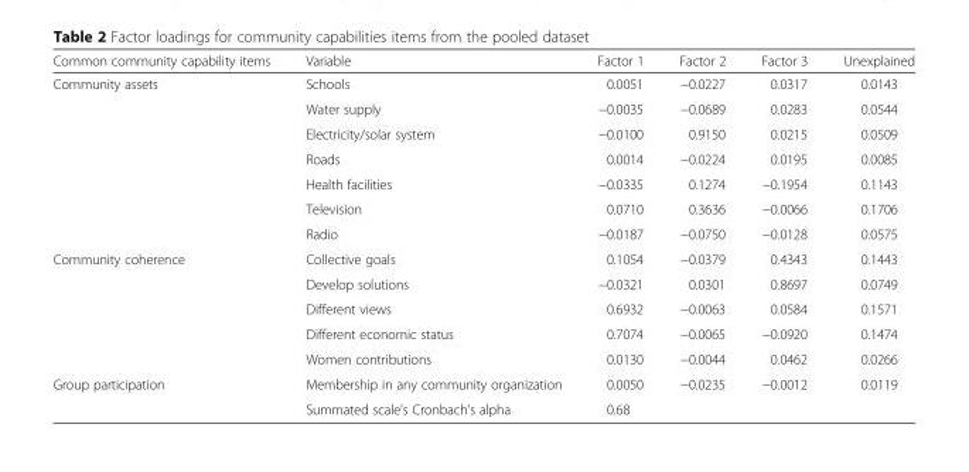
<table><thead><tr><td>Common community capability items</td><td>Variable</td><td>Factor 1</td><td>Factor 2</td><td>Factor 3</td><td>Unexplained</td></tr></thead><tbody><tr><td rowspan="7">Community assets</td><td>Schools</td><td>0.0051</td><td>−0.0227</td><td>0.0317</td><td>0.0143</td></tr><tr><td>Water supply</td><td>−0.0035</td><td>−0.0689</td><td>0.0283</td><td>0.0544</td></tr><tr><td>Electricity/solar system</td><td>−0.0100</td><td>0.9150</td><td>0.0215</td><td>0.0509</td></tr><tr><td>Roads</td><td>0.0014</td><td>−0.0224</td><td>0.0195</td><td>0.0085</td></tr><tr><td>Health facilities</td><td>−0.0335</td><td>0.1274</td><td>−0.1954</td><td>0.1143</td></tr><tr><td>Television</td><td>0.0710</td><td>0.3636</td><td>−0.0066</td><td>0.1706</td></tr><tr><td>Radio</td><td>−0.0187</td><td>−0.0750</td><td>−0.0128</td><td>0.0575</td></tr><tr><td rowspan="5">Community coherence</td><td>Collective goals</td><td>0.1054</td><td>−0.0379</td><td>0.4343</td><td>0.1443</td></tr><tr><td>Develop solutions</td><td>−0.0321</td><td>0.0301</td><td>0.8697</td><td>0.0749</td></tr><tr><td>Different views</td><td>0.6932</td><td>−0.0063</td><td>0.0584</td><td>0.1571</td></tr><tr><td>Different economic status</td><td>0.7074</td><td>−0.0065</td><td>−0.0920</td><td>0.1474</td></tr><tr><td>Women contributions</td><td>0.0130</td><td>−0.0044</td><td>0.0462</td><td>0.0266</td></tr><tr><td rowspan="2">Group participation</td><td>Membership in any community organization</td><td>0.0050</td><td>−0.0235</td><td>−0.0012</td><td>0.0119</td></tr><tr><td>Summated scale’s Cronbach’s alpha</td><td>0.68</td><td></td><td></td><td></td></tr></tbody></table>